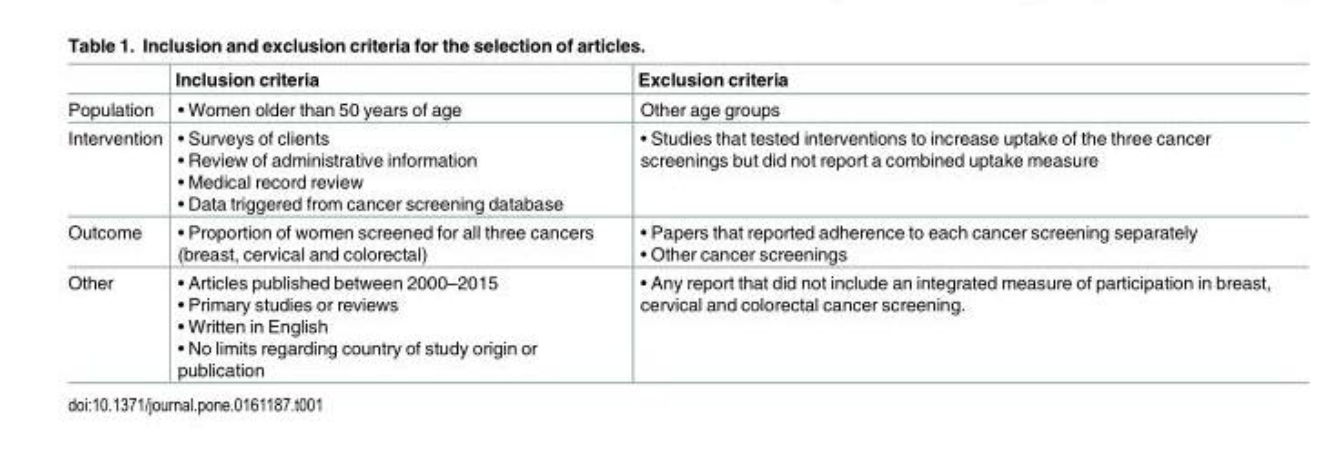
<table><thead><tr><td></td><td>Inclusion criteria</td><td>Exclusion criteria</td></tr></thead><tbody><tr><td>Population</td><td>• Women older than 50 years of age</td><td>Other age groups</td></tr><tr><td>Intervention</td><td>• Surveys of clients • Review of administrative information • Medical record review • Data triggered from cancer screening database</td><td>• Studies that tested interventions to increase uptake of the three cancer screenings but did not report a combined uptake measure</td></tr><tr><td>Outcome</td><td>• Proportion of women screened for all three cancers (breast, cervical and colorectal)</td><td>• Papers that reported adherence to each cancer screening separately • Other cancer screenings</td></tr><tr><td>Other</td><td>• Articles published between 2000–2015 • Primary studies or reviews • Written in English • No limits regarding country of study origin or publication</td><td>• Any report that did not include an integrated measure of participation in breast, cervical and colorectal cancer screening.</td></tr></tbody></table>